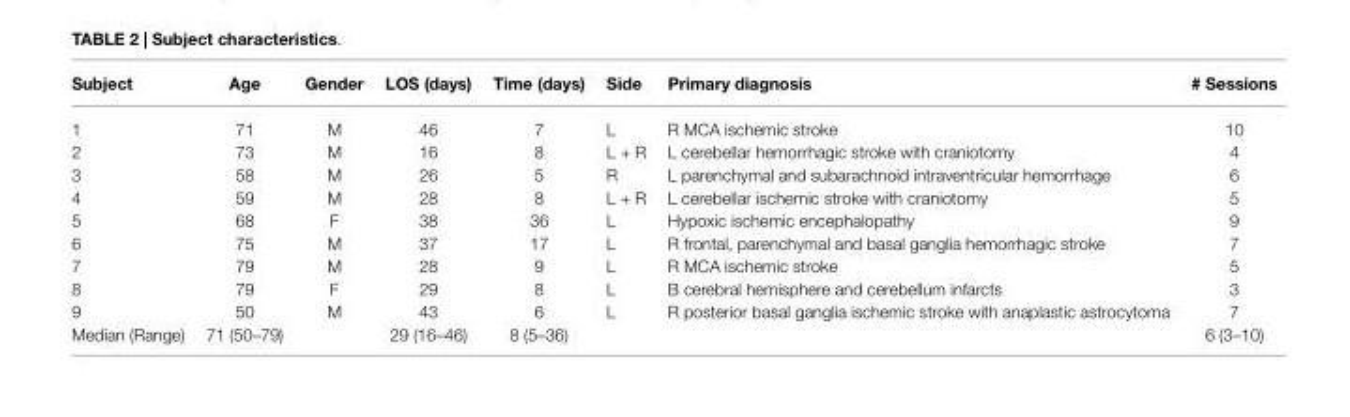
<table><thead><tr><td>Subject</td><td>Age</td><td>Gender</td><td>LOS (days)</td><td>Time (days)</td><td>Side</td><td>Primary diagnosis</td><td># Sessions</td></tr></thead><tbody><tr><td>1</td><td>71</td><td>M</td><td>46</td><td>7</td><td>L</td><td>R MCA ischemic stroke</td><td>10</td></tr><tr><td>2</td><td>73</td><td>M</td><td>16</td><td>8</td><td>L + R</td><td>L cerebellar hemorrhagic stroke with craniotomy</td><td>4</td></tr><tr><td>3</td><td>58</td><td>M</td><td>26</td><td>5</td><td>R</td><td>L parenchymal and subarachnoid intraventricular hemorrhage</td><td>6</td></tr><tr><td>4</td><td>59</td><td>M</td><td>28</td><td>8</td><td>L + R</td><td>L cerebellar ischemic stroke with craniotomy</td><td>5</td></tr><tr><td>5</td><td>68</td><td>F</td><td>38</td><td>36</td><td>L</td><td>Hypoxic ischemic encephalopathy</td><td>9</td></tr><tr><td>6</td><td>75</td><td>M</td><td>37</td><td>17</td><td>L</td><td>R frontal, parenchymal and basal ganglia hemorrhagic stroke</td><td>7</td></tr><tr><td>7</td><td>79</td><td>M</td><td>28</td><td>9</td><td>L</td><td>R MCA ischemic stroke</td><td>5</td></tr><tr><td>8</td><td>79</td><td>F</td><td>29</td><td>8</td><td>L</td><td>B cerebral hemisphere and cerebellum infarcts</td><td>3</td></tr><tr><td>9</td><td>50</td><td>M</td><td>43</td><td>6</td><td>L</td><td>R posterior basal ganglia ischemic stroke with anaplastic astrocytoma</td><td>7</td></tr><tr><td>Median (Range)</td><td>71 (50–79)</td><td></td><td>29 (16–46)</td><td>8 (5–36)</td><td></td><td></td><td>6 (3–10)</td></tr></tbody></table>